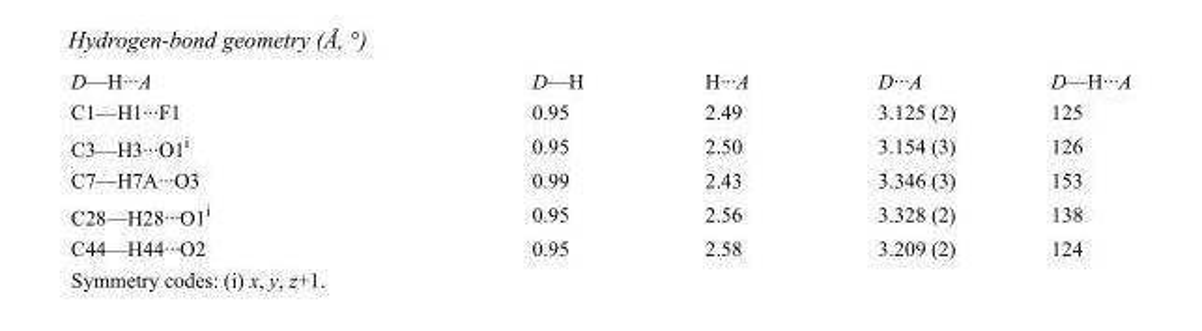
<table><tbody><tr><td>D—H···A</td><td>D—H</td><td>H···A</td><td>D···A</td><td>D—H···A</td></tr><tr><td>C1—H1···F1</td><td>0.95</td><td>2.49</td><td>3.125 (2)</td><td>125</td></tr><tr><td>C3—H3···O1<sup>i</sup></td><td>0.95</td><td>2.50</td><td>3.154 (3)</td><td>126</td></tr><tr><td>C7—H7A···O3</td><td>0.99</td><td>2.43</td><td>3.346 (3)</td><td>153</td></tr><tr><td>C28—H28···O1<sup>i</sup></td><td>0.95</td><td>2.56</td><td>3.328 (2)</td><td>138</td></tr><tr><td>C44—H44···O2</td><td>0.95</td><td>2.58</td><td>3.209 (2)</td><td>124</td></tr></tbody></table>